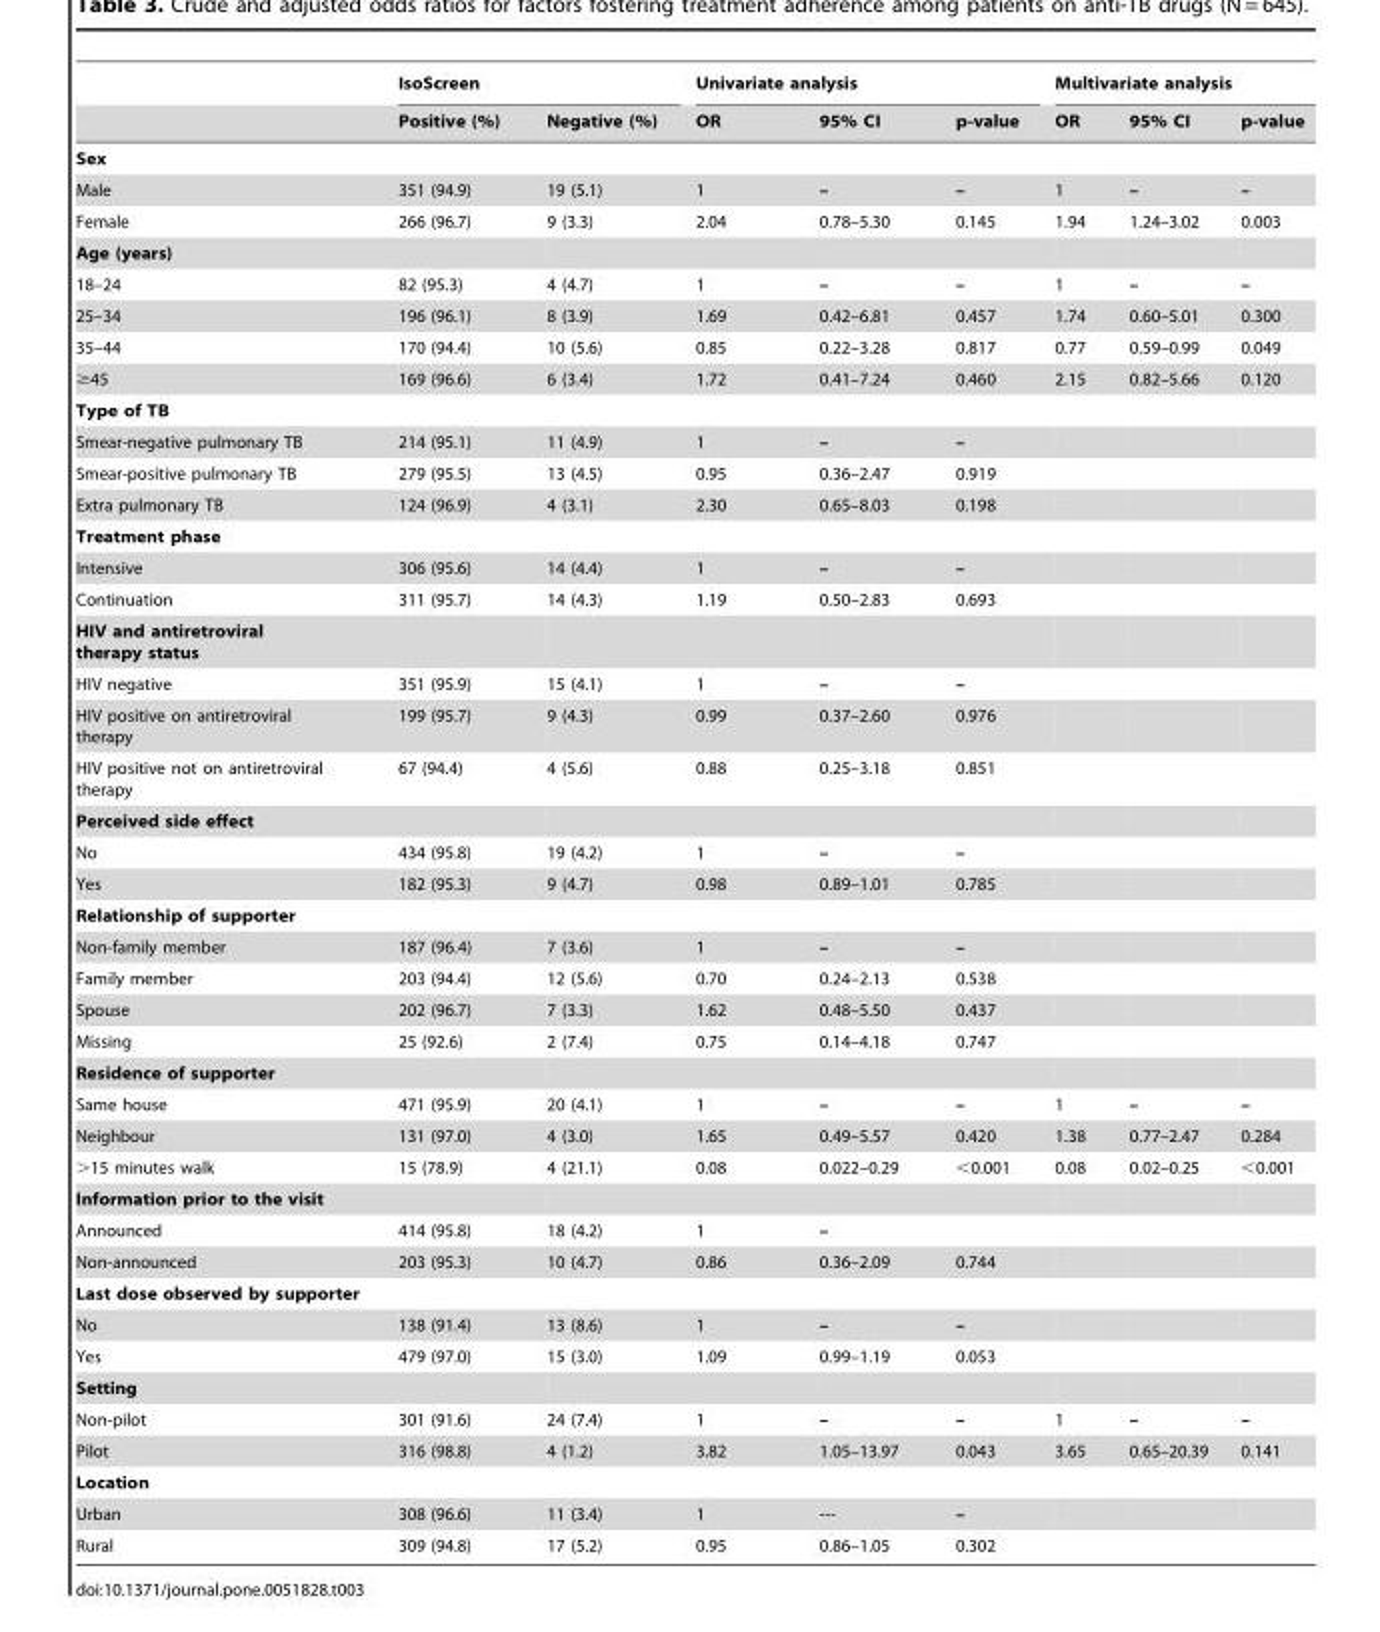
<table><thead><tr><td rowspan="2"></td><td colspan="2">IsoScreen</td><td colspan="3">Univariate analysis</td><td colspan="3">Multivariate analysis</td></tr><tr><td>Positive (%)</td><td>Negative (%)</td><td>OR</td><td>95% CI</td><td>p-value</td><td>OR</td><td>95% CI</td><td>p-value</td></tr></thead><tbody><tr><td colspan="9">Sex</td></tr><tr><td>Male</td><td>351 (94.9)</td><td>19 (5.1)</td><td>1</td><td>–</td><td>–</td><td>1</td><td>–</td><td>–</td></tr><tr><td>Female</td><td>266 (96.7)</td><td>9 (3.3)</td><td>2.04</td><td>0.78–5.30</td><td>0.145</td><td>1.94</td><td>1.24–3.02</td><td>0.003</td></tr><tr><td colspan="9">Age (years)</td></tr><tr><td>18–24</td><td>82 (95.3)</td><td>4 (4.7)</td><td>1</td><td>–</td><td>–</td><td>1</td><td>–</td><td>–</td></tr><tr><td>25–34</td><td>196 (96.1)</td><td>8 (3.9)</td><td>1.69</td><td>0.42–6.81</td><td>0.457</td><td>1.74</td><td>0.60–5.01</td><td>0.300</td></tr><tr><td>35–44</td><td>170 (94.4)</td><td>10 (5.6)</td><td>0.85</td><td>0.22–3.28</td><td>0.817</td><td>0.77</td><td>0.59–0.99</td><td>0.049</td></tr><tr><td>≥45</td><td>169 (96.6)</td><td>6 (3.4)</td><td>1.72</td><td>0.41–7.24</td><td>0.460</td><td>2.15</td><td>0.82–5.66</td><td>0.120</td></tr><tr><td colspan="9">Type of TB</td></tr><tr><td>Smear-negative pulmonary TB</td><td>214 (95.1)</td><td>11 (4.9)</td><td>1</td><td>–</td><td>–</td><td></td><td></td><td></td></tr><tr><td>Smear-positive pulmonary TB</td><td>279 (95.5)</td><td>13 (4.5)</td><td>0.95</td><td>0.36–2.47</td><td>0.919</td><td></td><td></td><td></td></tr><tr><td>Extra pulmonary TB</td><td>124 (96.9)</td><td>4 (3.1)</td><td>2.30</td><td>0.65–8.03</td><td>0.198</td><td></td><td></td><td></td></tr><tr><td colspan="9">Treatment phase</td></tr><tr><td>Intensive</td><td>306 (95.6)</td><td>14 (4.4)</td><td>1</td><td>–</td><td>–</td><td></td><td></td><td></td></tr><tr><td>Continuation</td><td>311 (95.7)</td><td>14 (4.3)</td><td>1.19</td><td>0.50–2.83</td><td>0.693</td><td></td><td></td><td></td></tr><tr><td colspan="9">HIV and antiretroviral therapy status</td></tr><tr><td>HIV negative</td><td>351 (95.9)</td><td>15 (4.1)</td><td>1</td><td>–</td><td>–</td><td></td><td></td><td></td></tr><tr><td>HIV positive on antiretroviral therapy</td><td>199 (95.7)</td><td>9 (4.3)</td><td>0.99</td><td>0.37–2.60</td><td>0.976</td><td></td><td></td><td></td></tr><tr><td>HIV positive not on antiretroviral therapy</td><td>67 (94.4)</td><td>4 (5.6)</td><td>0.88</td><td>0.25–3.18</td><td>0.851</td><td></td><td></td><td></td></tr><tr><td colspan="9">Perceived side effect</td></tr><tr><td>No</td><td>434 (95.8)</td><td>19 (4.2)</td><td>1</td><td>–</td><td>–</td><td></td><td></td><td></td></tr><tr><td>Yes</td><td>182 (95.3)</td><td>9 (4.7)</td><td>0.98</td><td>0.89–1.01</td><td>0.785</td><td></td><td></td><td></td></tr><tr><td colspan="9">Relationship of supporter</td></tr><tr><td>Non-family member</td><td>187 (96.4)</td><td>7 (3.6)</td><td>1</td><td>–</td><td>–</td><td></td><td></td><td></td></tr><tr><td>Family member</td><td>203 (94.4)</td><td>12 (5.6)</td><td>0.70</td><td>0.24–2.13</td><td>0.538</td><td></td><td></td><td></td></tr><tr><td>Spouse</td><td>202 (96.7)</td><td>7 (3.3)</td><td>1.62</td><td>0.48–5.50</td><td>0.437</td><td></td><td></td><td></td></tr><tr><td>Missing</td><td>25 (92.6)</td><td>2 (7.4)</td><td>0.75</td><td>0.14–4.18</td><td>0.747</td><td></td><td></td><td></td></tr><tr><td colspan="9">Residence of supporter</td></tr><tr><td>Same house</td><td>471 (95.9)</td><td>20 (4.1)</td><td>1</td><td>–</td><td>–</td><td>1</td><td>–</td><td>–</td></tr><tr><td>Neighbour</td><td>131 (97.0)</td><td>4 (3.0)</td><td>1.65</td><td>0.49–5.57</td><td>0.420</td><td>1.38</td><td>0.77–2.47</td><td>0.284</td></tr><tr><td>&gt;15 minutes walk</td><td>15 (78.9)</td><td>4 (21.1)</td><td>0.08</td><td>0.022–0.29</td><td>&lt;0.001</td><td>0.08</td><td>0.02–0.25</td><td>&lt;0.001</td></tr><tr><td colspan="9">Information prior to the visit</td></tr><tr><td>Announced</td><td>414 (95.8)</td><td>18 (4.2)</td><td>1</td><td>–</td><td></td><td></td><td></td><td></td></tr><tr><td>Non-announced</td><td>203 (95.3)</td><td>10 (4.7)</td><td>0.86</td><td>0.36–2.09</td><td>0.744</td><td></td><td></td><td></td></tr><tr><td colspan="9">Last dose observed by supporter</td></tr><tr><td>No</td><td>138 (91.4)</td><td>13 (8.6)</td><td>1</td><td>–</td><td>–</td><td></td><td></td><td></td></tr><tr><td>Yes</td><td>479 (97.0)</td><td>15 (3.0)</td><td>1.09</td><td>0.99–1.19</td><td>0.053</td><td></td><td></td><td></td></tr><tr><td colspan="9">Setting</td></tr><tr><td>Non-pilot</td><td>301 (91.6)</td><td>24 (7.4)</td><td>1</td><td>–</td><td>–</td><td>1</td><td>–</td><td>–</td></tr><tr><td>Pilot</td><td>316 (98.8)</td><td>4 (1.2)</td><td>3.82</td><td>1.05–13.97</td><td>0.043</td><td>3.65</td><td>0.65–20.39</td><td>0.141</td></tr><tr><td colspan="9">Location</td></tr><tr><td>Urban</td><td>308 (96.6)</td><td>11 (3.4)</td><td>1</td><td>---</td><td>–</td><td></td><td></td><td></td></tr><tr><td>Rural</td><td>309 (94.8)</td><td>17 (5.2)</td><td>0.95</td><td>0.86–1.05</td><td>0.302</td><td></td><td></td><td></td></tr></tbody></table>